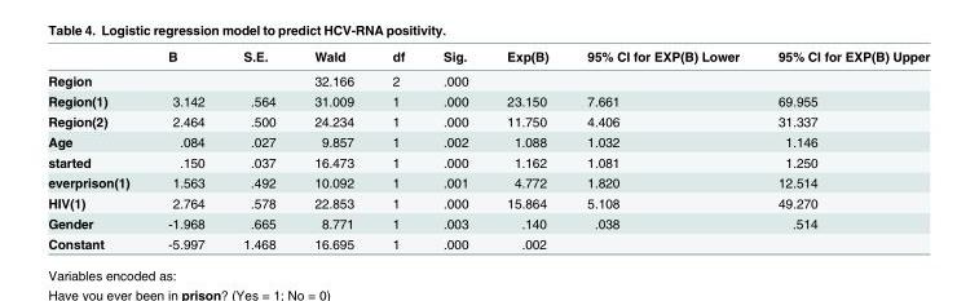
<table><thead><tr><td></td><td>B</td><td>S.E.</td><td>Wald</td><td>df</td><td>Sig.</td><td>Exp(B)</td><td>95% CI for EXP(B) Lower</td><td>95% CI for EXP(B) Upper</td></tr></thead><tbody><tr><td>Region</td><td></td><td></td><td>32.166</td><td>2</td><td>.000</td><td></td><td></td><td></td></tr><tr><td>Region(1)</td><td>3.142</td><td>.564</td><td>31.009</td><td>1</td><td>.000</td><td>23.150</td><td>7.661</td><td>69.955</td></tr><tr><td>Region(2)</td><td>2.464</td><td>.500</td><td>24.234</td><td>1</td><td>.000</td><td>11.750</td><td>4.406</td><td>31.337</td></tr><tr><td>Age</td><td>.084</td><td>.027</td><td>9.857</td><td>1</td><td>.002</td><td>1.088</td><td>1.032</td><td>1.146</td></tr><tr><td>started</td><td>.150</td><td>.037</td><td>16.473</td><td>1</td><td>.000</td><td>1.162</td><td>1.081</td><td>1.250</td></tr><tr><td>everprison(1)</td><td>1.563</td><td>.492</td><td>10.092</td><td>1</td><td>.001</td><td>4.772</td><td>1.820</td><td>12.514</td></tr><tr><td>HIV(1)</td><td>2.764</td><td>.578</td><td>22.853</td><td>1</td><td>.000</td><td>15.864</td><td>5.108</td><td>49.270</td></tr><tr><td>Gender</td><td>-1.968</td><td>.665</td><td>8.771</td><td>1</td><td>.003</td><td>.140</td><td>.038</td><td>.514</td></tr><tr><td>Constant</td><td>-5.997</td><td>1.468</td><td>16.695</td><td>1</td><td>.000</td><td>.002</td><td></td><td></td></tr></tbody></table>